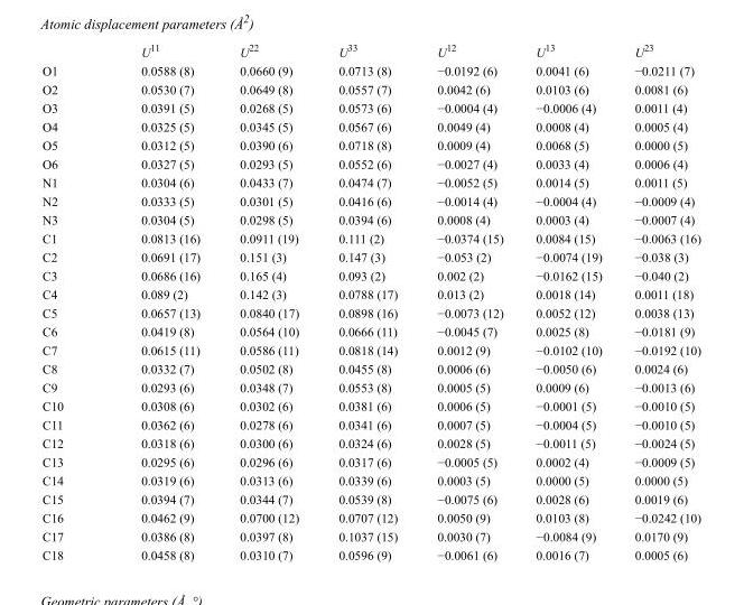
<table><thead><tr><td></td><td>U<sup>11</sup></td><td>U<sup>22</sup></td><td>U<sup>33</sup></td><td>U<sup>12</sup></td><td>U<sup>13</sup></td><td>U<sup>23</sup></td></tr></thead><tbody><tr><td>O1</td><td>0.0588 (8)</td><td>0.0660 (9)</td><td>0.0713 (8)</td><td>−0.0192 (6)</td><td>0.0041 (6)</td><td>−0.0211 (7)</td></tr><tr><td>O2</td><td>0.0530 (7)</td><td>0.0649 (8)</td><td>0.0557 (7)</td><td>0.0042 (6)</td><td>0.0103 (6)</td><td>0.0081 (6)</td></tr><tr><td>O3</td><td>0.0391 (5)</td><td>0.0268 (5)</td><td>0.0573 (6)</td><td>−0.0004 (4)</td><td>−0.0006 (4)</td><td>0.0011 (4)</td></tr><tr><td>O4</td><td>0.0325 (5)</td><td>0.0345 (5)</td><td>0.0567 (6)</td><td>0.0049 (4)</td><td>0.0008 (4)</td><td>0.0005 (4)</td></tr><tr><td>O5</td><td>0.0312 (5)</td><td>0.0390 (6)</td><td>0.0718 (8)</td><td>0.0009 (4)</td><td>0.0068 (5)</td><td>0.0000 (5)</td></tr><tr><td>O6</td><td>0.0327 (5)</td><td>0.0293 (5)</td><td>0.0552 (6)</td><td>−0.0027 (4)</td><td>0.0033 (4)</td><td>0.0006 (4)</td></tr><tr><td>N1</td><td>0.0304 (6)</td><td>0.0433 (7)</td><td>0.0474 (7)</td><td>−0.0052 (5)</td><td>0.0014 (5)</td><td>0.0011 (5)</td></tr><tr><td>N2</td><td>0.0333 (5)</td><td>0.0301 (5)</td><td>0.0416 (6)</td><td>−0.0014 (4)</td><td>−0.0004 (4)</td><td>−0.0009 (4)</td></tr><tr><td>N3</td><td>0.0304 (5)</td><td>0.0298 (5)</td><td>0.0394 (6)</td><td>0.0008 (4)</td><td>0.0003 (4)</td><td>−0.0007 (4)</td></tr><tr><td>C1</td><td>0.0813 (16)</td><td>0.0911 (19)</td><td>0.111 (2)</td><td>−0.0374 (15)</td><td>0.0084 (15)</td><td>−0.0063 (16)</td></tr><tr><td>C2</td><td>0.0691 (17)</td><td>0.151 (3)</td><td>0.147 (3)</td><td>−0.053 (2)</td><td>−0.0074 (19)</td><td>−0.038 (3)</td></tr><tr><td>C3</td><td>0.0686 (16)</td><td>0.165 (4)</td><td>0.093 (2)</td><td>0.002 (2)</td><td>−0.0162 (15)</td><td>−0.040 (2)</td></tr><tr><td>C4</td><td>0.089 (2)</td><td>0.142 (3)</td><td>0.0788 (17)</td><td>0.013 (2)</td><td>0.0018 (14)</td><td>0.0011 (18)</td></tr><tr><td>C5</td><td>0.0657 (13)</td><td>0.0840 (17)</td><td>0.0898 (16)</td><td>−0.0073 (12)</td><td>0.0052 (12)</td><td>0.0038 (13)</td></tr><tr><td>C6</td><td>0.0419 (8)</td><td>0.0564 (10)</td><td>0.0666 (11)</td><td>−0.0045 (7)</td><td>0.0025 (8)</td><td>−0.0181 (9)</td></tr><tr><td>C7</td><td>0.0615 (11)</td><td>0.0586 (11)</td><td>0.0818 (14)</td><td>0.0012 (9)</td><td>−0.0102 (10)</td><td>−0.0192 (10)</td></tr><tr><td>C8</td><td>0.0332 (7)</td><td>0.0502 (8)</td><td>0.0455 (8)</td><td>0.0006 (6)</td><td>−0.0050 (6)</td><td>0.0024 (6)</td></tr><tr><td>C9</td><td>0.0293 (6)</td><td>0.0348 (7)</td><td>0.0553 (8)</td><td>0.0005 (5)</td><td>0.0009 (6)</td><td>−0.0013 (6)</td></tr><tr><td>C10</td><td>0.0308 (6)</td><td>0.0302 (6)</td><td>0.0381 (6)</td><td>0.0006 (5)</td><td>−0.0001 (5)</td><td>−0.0010 (5)</td></tr><tr><td>C11</td><td>0.0362 (6)</td><td>0.0278 (6)</td><td>0.0341 (6)</td><td>0.0007 (5)</td><td>−0.0004 (5)</td><td>−0.0010 (5)</td></tr><tr><td>C12</td><td>0.0318 (6)</td><td>0.0300 (6)</td><td>0.0324 (6)</td><td>0.0028 (5)</td><td>−0.0011 (5)</td><td>−0.0024 (5)</td></tr><tr><td>C13</td><td>0.0295 (6)</td><td>0.0296 (6)</td><td>0.0317 (6)</td><td>−0.0005 (5)</td><td>0.0002 (4)</td><td>−0.0009 (5)</td></tr><tr><td>C14</td><td>0.0319 (6)</td><td>0.0313 (6)</td><td>0.0339 (6)</td><td>0.0003 (5)</td><td>0.0000 (5)</td><td>0.0000 (5)</td></tr><tr><td>C15</td><td>0.0394 (7)</td><td>0.0344 (7)</td><td>0.0539 (8)</td><td>−0.0075 (6)</td><td>0.0028 (6)</td><td>0.0019 (6)</td></tr><tr><td>C16</td><td>0.0462 (9)</td><td>0.0700 (12)</td><td>0.0707 (12)</td><td>0.0050 (9)</td><td>0.0103 (8)</td><td>−0.0242 (10)</td></tr><tr><td>C17</td><td>0.0386 (8)</td><td>0.0397 (8)</td><td>0.1037 (15)</td><td>0.0030 (7)</td><td>−0.0084 (9)</td><td>0.0170 (9)</td></tr><tr><td>C18</td><td>0.0458 (8)</td><td>0.0310 (7)</td><td>0.0596 (9)</td><td>−0.0061 (6)</td><td>0.0016 (7)</td><td>0.0005 (6)</td></tr></tbody></table>